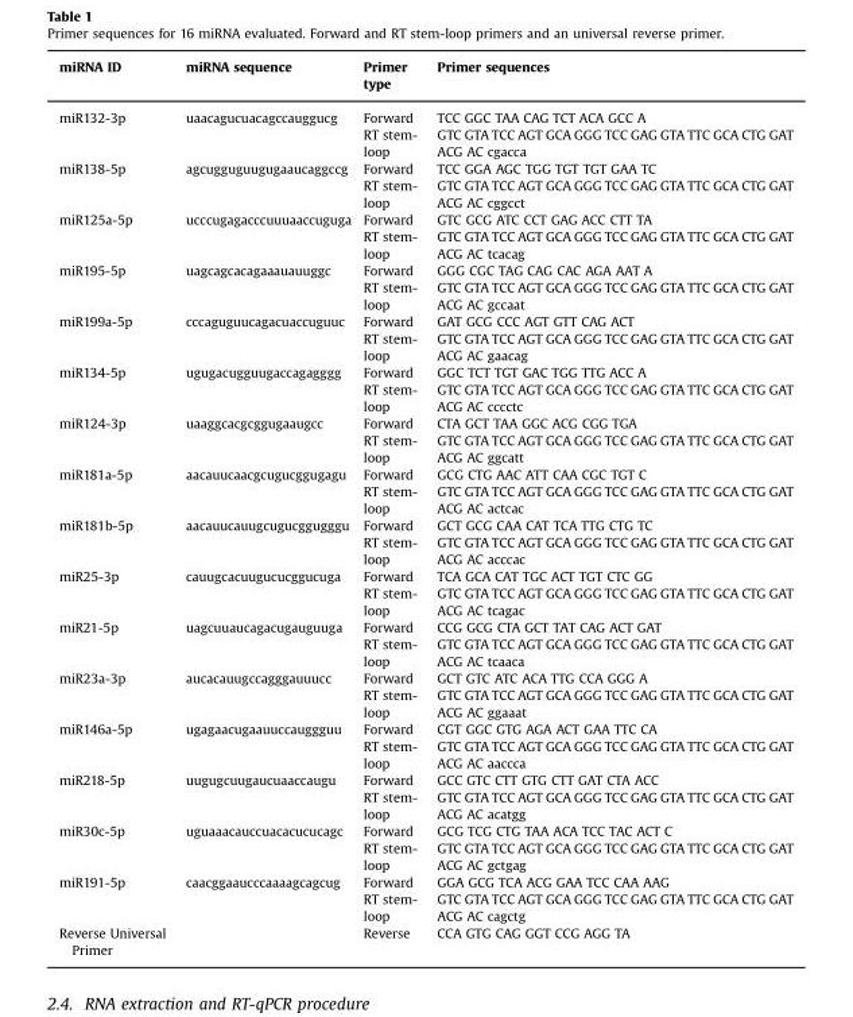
<table><thead><tr><td>miRNA ID</td><td>miRNA sequence</td><td>Primer type</td><td>Primer sequences</td></tr></thead><tbody><tr><td rowspan="2">miR132-3p</td><td rowspan="2">uaacagucuacagccauggucg</td><td>Forward</td><td>TCC GGC TAA CAG TCT ACA GCC A</td></tr><tr><td>RT stem- loop</td><td>GTC GTA TCC AGT GCA GGG TCC GAG GTA TTC GCA CTG GAT ACG AC cgacca</td></tr><tr><td rowspan="2">miR138-5p</td><td rowspan="2">agcugguguugugaaucaggccg</td><td>Forward</td><td>TCC GGA AGC TGG TGT TGT GAA TC</td></tr><tr><td>RT stem- loop</td><td>GTC GTA TCC AGT GCA GGG TCC GAG GTA TTC GCA CTG GAT ACG AC cggcct</td></tr><tr><td rowspan="2">miR125a-5p</td><td rowspan="2">ucccugagacccuuuaaccuguga</td><td>Forward</td><td>GTC GCG ATC CCT GAG ACC CTT TA</td></tr><tr><td>RT stem- loop</td><td>GTC GTA TCC AGT GCA GGG TCC GAG GTA TTC GCA CTG GAT ACG AC tcacag</td></tr><tr><td rowspan="2">miR195-5p</td><td rowspan="2">uagcagcacagaaauauuggc</td><td>Forward</td><td>GGG CGC TAG CAG CAC AGA AAT A</td></tr><tr><td>RT stem- loop</td><td>GTC GTA TCC AGT GCA GGG TCC GAG GTA TTC GCA CTG GAT ACG AC gccaat</td></tr><tr><td rowspan="2">miR199a-5p</td><td rowspan="2">cccaguguucagacuaccuguuc</td><td>Forward</td><td>GAT GCG CCC AGT GTT CAG ACT</td></tr><tr><td>RT stem- loop</td><td>GTC GTA TCC AGT GCA GGG TCC GAG GTA TTC GCA CTG GAT ACG AC gaacag</td></tr><tr><td rowspan="2">miR134-5p</td><td rowspan="2">ugugacugguugaccagagggg</td><td>Forward</td><td>GGC TCT TGT GAC TGG TTG ACC A</td></tr><tr><td>RT stem- loop</td><td>GTC GTA TCC AGT GCA GGG TCC GAG GTA TTC GCA CTG GAT ACG AC cccctc</td></tr><tr><td rowspan="2">miR124-3p</td><td rowspan="2">uaaggcacgcggugaaugcc</td><td>Forward</td><td>CTA GCT TAA GGC ACG CGG TGA</td></tr><tr><td>RT stem- loop</td><td>GTC GTA TCC AGT GCA GGG TCC GAG GTA TTC GCA CTG GAT ACG AC ggcatt</td></tr><tr><td rowspan="2">miR181a-5p</td><td rowspan="2">aacauucaacgcugucggugagu</td><td>Forward</td><td>GCG CTG AAC ATT CAA CGC TGT C</td></tr><tr><td>RT stem- loop</td><td>GTC GTA TCC AGT GCA GGG TCC GAG GTA TTC GCA CTG GAT ACG AC actcac</td></tr><tr><td rowspan="2">miR181b-5p</td><td rowspan="2">aacauucauugcugucggugggu</td><td>Forward</td><td>GCT GCG CAA CAT TCA TTG CTG TC</td></tr><tr><td>RT stem- loop</td><td>GTC GTA TCC AGT GCA GGG TCC GAG GTA TTC GCA CTG GAT ACG AC acccac</td></tr><tr><td rowspan="2">miR25-3p</td><td rowspan="2">cauugcacuugucucggucuga</td><td>Forward</td><td>TCA GCA CAT TGC ACT TGT CTC GG</td></tr><tr><td>RT stem- loop</td><td>GTC GTA TCC AGT GCA GGG TCC GAG GTA TTC GCA CTG GAT ACG AC tcagac</td></tr><tr><td rowspan="2">miR21-5p</td><td rowspan="2">uagcuuaucagacugauguuga</td><td>Forward</td><td>CCG GCG CTA GCT TAT CAG ACT GAT</td></tr><tr><td>RT stem- loop</td><td>GTC GTA TCC AGT GCA GGG TCC GAG GTA TTC GCA CTG GAT ACG AC tcaaca</td></tr><tr><td rowspan="2">miR23a-3p</td><td rowspan="2">aucacauugccagggauuucc</td><td>Forward</td><td>GCT GTC ATC ACA TTG CCA GGG A</td></tr><tr><td>RT stem- loop</td><td>GTC GTA TCC AGT GCA GGG TCC GAG GTA TTC GCA CTG GAT ACG AC ggaaat</td></tr><tr><td rowspan="2">miR146a-5p</td><td rowspan="2">ugagaacugaauuccauggguu</td><td>Forward</td><td>CGT GGC GTG AGA ACT GAA TTC CA</td></tr><tr><td>RT stem- loop</td><td>GTC GTA TCC AGT GCA GGG TCC GAG GTA TTC GCA CTG GAT ACG AC aaccca</td></tr><tr><td rowspan="2">miR218-5p</td><td rowspan="2">uugugcuugaucuaaccaugu</td><td>Forward</td><td>GCC GTC CTT GTG CTT GAT CTA ACC</td></tr><tr><td>RT stem- loop</td><td>GTC GTA TCC AGT GCA GGG TCC GAG GTA TTC GCA CTG GAT ACG AC acatgg</td></tr><tr><td rowspan="2">miR30c-5p</td><td rowspan="2">uguaaacauccuacacucucagc</td><td>Forward</td><td>GCG TCG CTG TAA ACA TCC TAC ACT C</td></tr><tr><td>RT stem- loop</td><td>GTC GTA TCC AGT GCA GGG TCC GAG GTA TTC GCA CTG GAT ACG AC gctgag</td></tr><tr><td rowspan="2">miR191-5p</td><td rowspan="2">caacggaaucccaaaagcagcug</td><td>Forward</td><td>GGA GCG TCA ACG GAA TCC CAA AAG</td></tr><tr><td>RT stem- loop</td><td>GTC GTA TCC AGT GCA GGG TCC GAG GTA TTC GCA CTG GAT ACG AC cagctg</td></tr><tr><td>Reverse Universal Primer</td><td></td><td>Reverse</td><td>CCA GTG CAG GGT CCG AGG TA</td></tr></tbody></table>